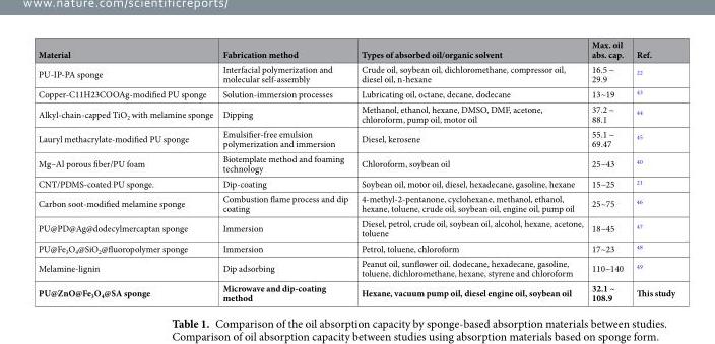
<table><thead><tr><td>Material</td><td>Fabrication method</td><td>Types of absorbed oil/organic solvent</td><td>Max. oil abs. cap.</td><td>Ref.</td></tr></thead><tbody><tr><td>PU-IP-PA sponge</td><td>Interfacial polymerization and molecular self-assembly</td><td>Crude oil, soybean oil, dichloromethane, compressor oil, diesel oil, n-hexane</td><td>16.5 ~ 29.9</td><td><sup>22</sup></td></tr><tr><td>Copper-C11H23COOAg-modified PU sponge</td><td>Solution-immersion processes</td><td>Lubricating oil, octane, decane, dodecane</td><td>13~19</td><td><sup>43</sup></td></tr><tr><td>Alkyl-chain-capped TiO<sub>2</sub> with melamine sponge</td><td>Dipping</td><td>Methanol, ethanol, hexane, DMSO, DMF, acetone, chloroform, pump oil, motor oil</td><td>37.2 ~ 88.1</td><td><sup>44</sup></td></tr><tr><td>Lauryl methacrylate-modified PU sponge</td><td>Emulsifier-free emulsion polymerization and immersion</td><td>Diesel, kerosene</td><td>55.1 ~ 69.47</td><td><sup>45</sup></td></tr><tr><td>Mg–Al porous fiber/PU foam</td><td>Biotemplate method and foaming technology</td><td>Chloroform, soybean oil</td><td>25~43</td><td><sup>40</sup></td></tr><tr><td>CNT/PDMS-coated PU sponge.</td><td>Dip-coating</td><td>Soybean oil, motor oil, diesel, hexadecane, gasoline, hexane</td><td>15~25</td><td><sup>21</sup></td></tr><tr><td>Carbon soot-modified melamine sponge</td><td>Combustion flame process and dip coating</td><td>4-methyl-2-pentanone, cyclohexane, methanol, ethanol, hexane, toluene, crude oil, soybean oil, engine oil, pump oil</td><td>25~75</td><td><sup>46</sup></td></tr><tr><td>PU@PD@Ag@dodecylmercaptan sponge</td><td>Immersion</td><td>Diesel, petrol, crude oil, soybean oil, alcohol, hexane, acetone, toluene</td><td>18~45</td><td><sup>47</sup></td></tr><tr><td>PU@Fe<sub>3</sub>O<sub>4</sub>@SiO<sub>2</sub>@fluoropolymer sponge</td><td>Immersion</td><td>Petrol, toluene, chloroform</td><td>17~23</td><td><sup>48</sup></td></tr><tr><td>Melamine-lignin</td><td>Dip adsorbing</td><td>Peanut oil, sunflower oil. dodecane, hexadecane, gasoline, toluene, dichloromethane, hexane, styrene and chloroform</td><td>110~140</td><td><sup>49</sup></td></tr><tr><td>PU@ZnO@Fe<sub>3</sub>O<sub>4</sub>@SA sponge</td><td>Microwave and dip-coating method</td><td>Hexane, vacuum pump oil, diesel engine oil, soybean oil</td><td>32.1 ~ 108.9</td><td>This study</td></tr></tbody></table>